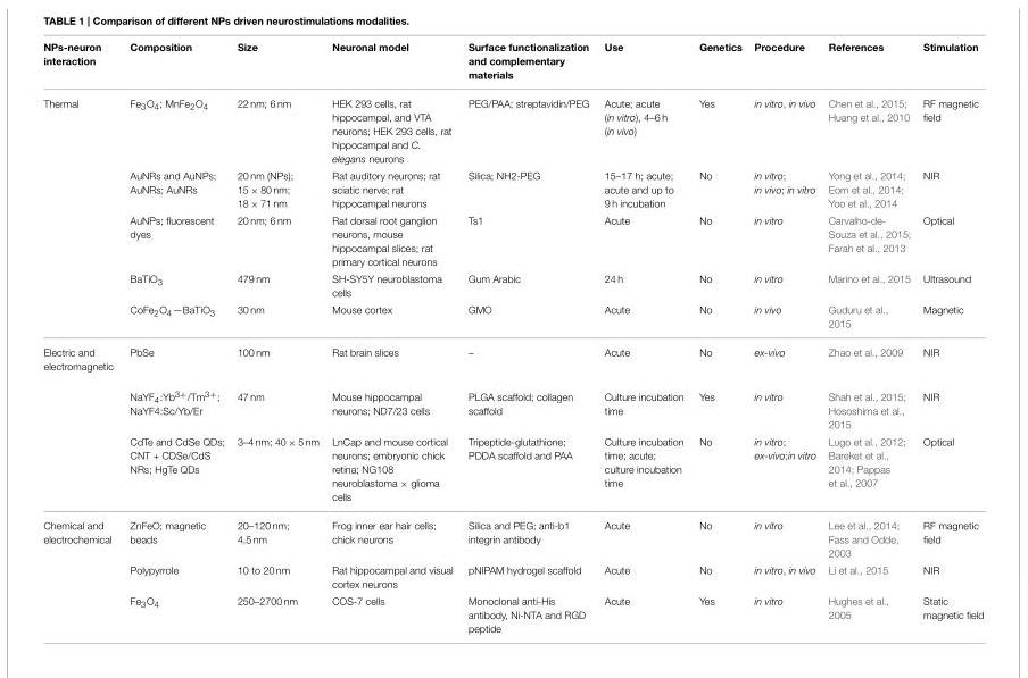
<table><thead><tr><td>NPs-neuron interaction</td><td>Composition</td><td>Size</td><td>Neuronal model</td><td>Surface functionalization and complementary materials</td><td>Use</td><td>Genetics</td><td>Procedure</td><td>References</td><td>Stimulation</td></tr></thead><tbody><tr><td rowspan="5">Thermal</td><td>Fe<sub>3</sub>O<sub>4</sub>; MnFe<sub>2</sub>O<sub>4</sub></td><td>22 nm; 6 nm</td><td>HEK 293 cells, rat hippocampal, and VTA neurons; HEK 293 cells, rat hippocampal and C. elegans neurons</td><td>PEG/PAA; streptavidin/PEG</td><td>Acute; acute (in vitro), 4–6 h (in vivo)</td><td>Yes</td><td>in vitro, in vivo</td><td>Chen et al., 2015; Huang et al., 2010</td><td>RF magnetic field</td></tr><tr><td>AuNRs and AuNPs; AuNRs; AuNRs</td><td>20 nm (NPs); 15 × 80 nm; 18 × 71 nm</td><td>Rat auditory neurons; rat sciatic nerve; rat hippocampal neurons</td><td>Silica; NH2-PEG</td><td>15–17 h; acute; acute and up to 9 h incubation</td><td>No</td><td>in vitro; in vivo; in vitro</td><td>Yong et al., 2014; Eom et al., 2014; Yoo et al., 2014</td><td>NIR</td></tr><tr><td>AuNPs; fluorescent dyes</td><td>20 nm; 6 nm</td><td>Rat dorsal root ganglion neurons, mouse hippocampal slices; rat primary cortical neurons</td><td>Ts1</td><td>Acute</td><td>No</td><td>in vitro</td><td>Carvalho-de- Souza et al., 2015; Farah et al., 2013</td><td>Optical</td></tr><tr><td>BaTiO<sub>3</sub></td><td>479 nm</td><td>SH-SY5Y neuroblastoma cells</td><td>Gum Arabic</td><td>24 h</td><td>No</td><td>in vitro</td><td>Marino et al., 2015</td><td>Ultrasound</td></tr><tr><td>CoFe<sub>2</sub>O<sub>4</sub>—BaTiO<sub>3</sub></td><td>30 nm</td><td>Mouse cortex</td><td>GMO</td><td>Acute</td><td>No</td><td>in vivo</td><td>Guduru et al., 2015</td><td>Magnetic</td></tr><tr><td rowspan="3">Electric and electromagnetic</td><td>PbSe</td><td>100 nm</td><td>Rat brain slices</td><td>–</td><td>Acute</td><td>No</td><td>ex-vivo</td><td>Zhao et al., 2009</td><td>NIR</td></tr><tr><td>NaYF<sub>4</sub>:Yb<sup>3+</sup>/Tm<sup>3+</sup>; NaYF4:Sc/Yb/Er</td><td>47 nm</td><td>Mouse hippocampal neurons; ND7/23 cells</td><td>PLGA scaffold; collagen scaffold</td><td>Culture incubation time</td><td>Yes</td><td>in vitro</td><td>Shah et al., 2015; Hososhima et al., 2015</td><td>NIR</td></tr><tr><td>CdTe and CdSe QDs; CNT + CDSe/CdS NRs; HgTe QDs</td><td>3–4 nm; 40 × 5 nm</td><td>LnCap and mouse cortical neurons; embryonic chick retina; NG108 neuroblastoma × glioma cells</td><td>Tripeptide-glutathione; PDDA scaffold and PAA</td><td>Culture incubation time; acute; culture incubation time</td><td>No</td><td>in vitro; ex-vivo;in vitro</td><td>Lugo et al., 2012; Bareket et al., 2014; Pappas et al., 2007</td><td>Optical</td></tr><tr><td rowspan="3">Chemical and electrochemical</td><td>ZnFeO; magnetic beads</td><td>20–120 nm; 4.5 nm</td><td>Frog inner ear hair cells; chick neurons</td><td>Silica and PEG; anti-b1 integrin antibody</td><td>Acute</td><td>No</td><td>in vitro</td><td>Lee et al., 2014; Fass and Odde, 2003</td><td>RF magnetic field</td></tr><tr><td>Polypyrrole</td><td>10 to 20 nm</td><td>Rat hippocampal and visual cortex neurons</td><td>pNIPAM hydrogel scaffold</td><td>Acute</td><td>No</td><td>in vitro, in vivo</td><td>Li et al., 2015</td><td>NIR</td></tr><tr><td>Fe<sub>3</sub>O<sub>4</sub></td><td>250–2700 nm</td><td>COS-7 cells</td><td>Monoclonal anti-His antibody, Ni-NTA and RGD peptide</td><td>Acute</td><td>Yes</td><td>in vitro</td><td>Hughes et al., 2005</td><td>Static magnetic field</td></tr></tbody></table>